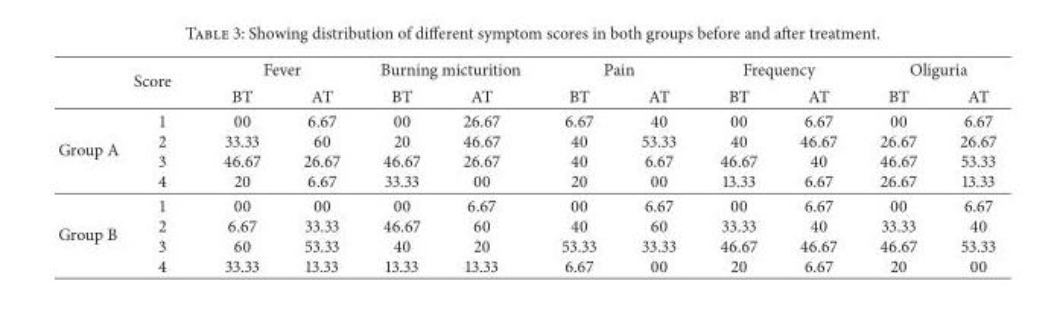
<table><thead><tr><td rowspan="2"></td><td rowspan="2">Score</td><td colspan="2">Fever</td><td colspan="2">Burning micturition</td><td colspan="2">Pain</td><td colspan="2">Frequency</td><td colspan="2">Oliguria</td></tr><tr><td>BT</td><td>AT</td><td>BT</td><td>AT</td><td>BT</td><td>AT</td><td>BT</td><td>AT</td><td>BT</td><td>AT</td></tr></thead><tbody><tr><td>Group A</td><td>1 2 3 4</td><td>00 33.33 46.67 20</td><td>6.67 60 26.67 6.67</td><td>00 20 46.67 33.33</td><td>26.67 46.67 26.67 00</td><td>6.67 40 40 20</td><td>40 53.33 6.67 00</td><td>00 40 46.67 13.33</td><td>6.67 46.67 40 6.67</td><td>00 26.67 46.67 26.67</td><td>6.67 26.67 53.33 13.33</td></tr><tr><td>Group B</td><td>1 2 3 4</td><td>00 6.67 60 33.33</td><td>00 33.33 53.33 13.33</td><td>00 46.67 40 13.33</td><td>6.67 60 20 13.33</td><td>00 40 53.33 6.67</td><td>6.67 60 33.33 00</td><td>00 33.33 46.67 20</td><td>6.67 40 46.67 6.67</td><td>00 33.33 46.67 20</td><td>6.67 40 53.33 00</td></tr></tbody></table>